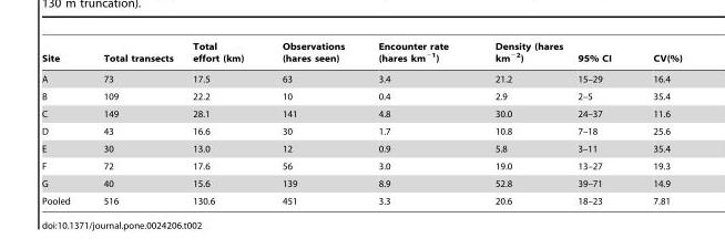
<table><thead><tr><td>Site</td><td>Total transects</td><td>Total effort (km)</td><td>Observations (hares seen)</td><td>Encounter rate (hares km<sup>−1</sup>)</td><td>Density (hares km<sup>−2</sup>)</td><td>95% CI</td><td>CV(%)</td></tr></thead><tbody><tr><td>A</td><td>73</td><td>17.5</td><td>63</td><td>3.4</td><td>21.2</td><td>15–29</td><td>16.4</td></tr><tr><td>B</td><td>109</td><td>22.2</td><td>10</td><td>0.4</td><td>2.9</td><td>2–5</td><td>35.4</td></tr><tr><td>C</td><td>149</td><td>28.1</td><td>141</td><td>4.8</td><td>30.0</td><td>24–37</td><td>11.6</td></tr><tr><td>D</td><td>43</td><td>16.6</td><td>30</td><td>1.7</td><td>10.8</td><td>7–18</td><td>25.6</td></tr><tr><td>E</td><td>30</td><td>13.0</td><td>12</td><td>0.9</td><td>5.8</td><td>3–11</td><td>35.4</td></tr><tr><td>F</td><td>72</td><td>17.6</td><td>56</td><td>3.0</td><td>19.0</td><td>13–27</td><td>19.3</td></tr><tr><td>G</td><td>40</td><td>15.6</td><td>139</td><td>8.9</td><td>52.8</td><td>39–71</td><td>14.9</td></tr><tr><td>Pooled</td><td>516</td><td>130.6</td><td>451</td><td>3.3</td><td>20.6</td><td>18–23</td><td>7.81</td></tr></tbody></table>